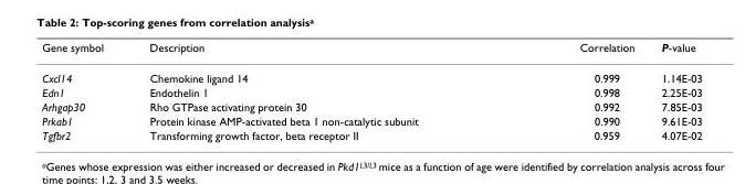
<table><thead><tr><td>Gene symbol</td><td>Description</td><td>Correlation</td><td>P-value</td></tr></thead><tbody><tr><td>Cxcl14</td><td>Chemokine ligand 14</td><td>0.999</td><td>1.14E-03</td></tr><tr><td>Edn1</td><td>Endothelin 1</td><td>0.998</td><td>2.25E-03</td></tr><tr><td>Arhgap30</td><td>Rho GTPase activating protein 30</td><td>0.992</td><td>7.85E-03</td></tr><tr><td>Prkab1</td><td>Protein kinase AMP-activated beta 1 non-catalytic subunit</td><td>0.990</td><td>9.61E-03</td></tr><tr><td>Tgfbr2</td><td>Transforming growth factor, beta receptor II</td><td>0.959</td><td>4.07E-02</td></tr></tbody></table>